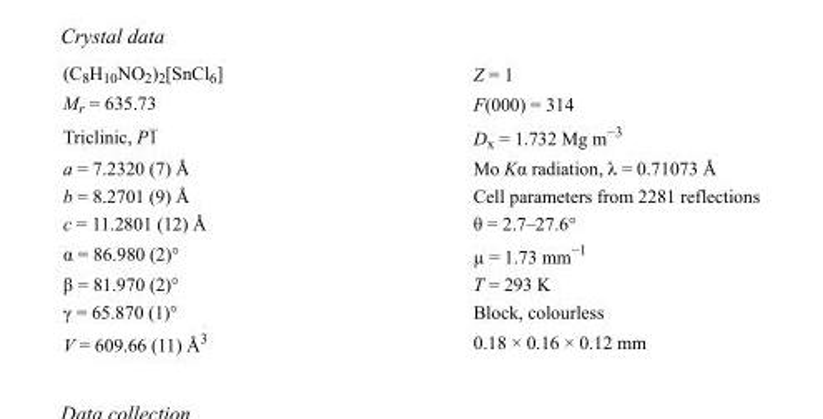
<table><tbody><tr><td>(C<sub>8</sub>H<sub>10</sub>NO<sub>2</sub>)<sub>2</sub>[SnCl<sub>6</sub>]</td><td>Z = 1</td></tr><tr><td>M<sub>r</sub> = 635.73</td><td>F(000) = 314</td></tr><tr><td>Triclinic, P1</td><td>D<sub>x</sub> = 1.732 Mg m<sup>−3</sup></td></tr><tr><td>a = 7.2320 (7) Å</td><td>Mo Kα radiation, λ = 0.71073 Å</td></tr><tr><td>b = 8.2701 (9) Å</td><td>Cell parameters from 2281 reflections</td></tr><tr><td>c = 11.2801 (12) Å</td><td>θ = 2.7–27.6°</td></tr><tr><td>α = 86.980 (2)°</td><td>µ = 1.73 mm<sup>−1</sup></td></tr><tr><td>β = 81.970 (2)°</td><td>T = 293 K</td></tr><tr><td>γ = 65.870 (1)°</td><td>Block, colourless</td></tr><tr><td>V = 609.66 (11) Å<sup>3</sup></td><td>0.18 × 0.16 × 0.12 mm</td></tr></tbody></table>